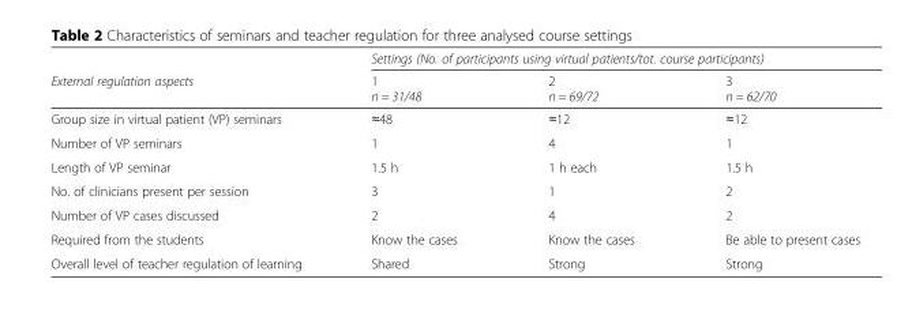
<table><thead><tr><td rowspan="2">External regulation aspects</td><td colspan="3">Settings (No. of participants using virtual patients/tot. course participants)</td></tr><tr><td>1 n = 31/48</td><td>2 n = 69/72</td><td>3 n = 62/70</td></tr></thead><tbody><tr><td>Group size in virtual patient (VP) seminars</td><td>≈48</td><td>≈12</td><td>≈12</td></tr><tr><td>Number of VP seminars</td><td>1</td><td>4</td><td>1</td></tr><tr><td>Length of VP seminar</td><td>1.5 h</td><td>1 h each</td><td>1.5 h</td></tr><tr><td>No. of clinicians present per session</td><td>3</td><td>1</td><td>2</td></tr><tr><td>Number of VP cases discussed</td><td>2</td><td>4</td><td>2</td></tr><tr><td>Required from the students</td><td>Know the cases</td><td>Know the cases</td><td>Be able to present cases</td></tr><tr><td>Overall level of teacher regulation of learning</td><td>Shared</td><td>Strong</td><td>Strong</td></tr></tbody></table>